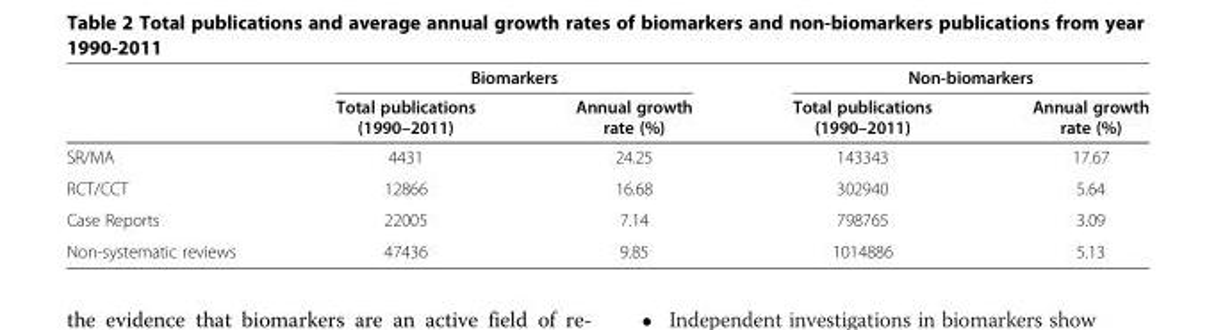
<table><thead><tr><td rowspan="2"></td><td colspan="2">Biomarkers</td><td colspan="2">Non-biomarkers</td></tr><tr><td>Total publications (1990–2011)</td><td>Annual growth rate (%)</td><td>Total publications (1990–2011)</td><td>Annual growth rate (%)</td></tr></thead><tbody><tr><td>SR/MA</td><td>4431</td><td>24.25</td><td>143343</td><td>17.67</td></tr><tr><td>RCT/CCT</td><td>12866</td><td>16.68</td><td>302940</td><td>5.64</td></tr><tr><td>Case Reports</td><td>22005</td><td>7.14</td><td>798765</td><td>3.09</td></tr><tr><td>Non-systematic reviews</td><td>47436</td><td>9.85</td><td>1014886</td><td>5.13</td></tr></tbody></table>